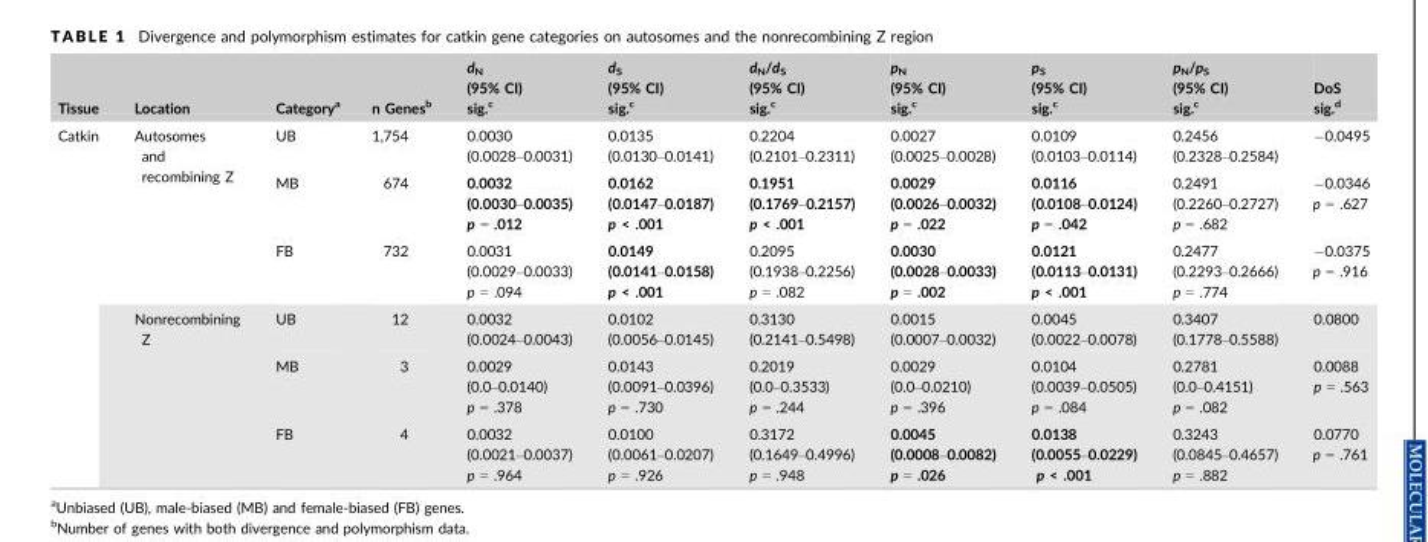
<table><thead><tr><td>Tissue</td><td>Location</td><td>Category<sup>a</sup></td><td>n Genes<sup>b</sup></td><td>d<sub>N</sub> (95% CI) sig.<sup>c</sup></td><td>d<sub>S</sub> (95% CI) sig.<sup>c</sup></td><td>d<sub>N</sub>/d<sub>S</sub> (95% CI) sig.<sup>c</sup></td><td>p<sub>N</sub> (95% CI) sig.<sup>c</sup></td><td>p<sub>S</sub> (95% CI) sig.<sup>c</sup></td><td>p<sub>N</sub>/p<sub>S</sub> (95% CI) sig.<sup>c</sup></td><td>DoS sig.<sup>d</sup></td></tr></thead><tbody><tr><td rowspan="6">Catkin</td><td rowspan="3">Autosomes and recombining Z</td><td>UB</td><td>1,754</td><td>0.0030 (0.0028–0.0031)</td><td>0.0135 (0.0130–0.0141)</td><td>0.2204 (0.2101–0.2311)</td><td>0.0027 (0.0025–0.0028)</td><td>0.0109 (0.0103–0.0114)</td><td>0.2456 (0.2328–0.2584)</td><td>−0.0495</td></tr><tr><td>MB</td><td>674</td><td>0.0032 (0.0030–0.0035) p = .012</td><td>0.0162 (0.0147–0.0187) p &lt; .001</td><td>0.1951 (0.1769–0.2157) p &lt; .001</td><td>0.0029 (0.0026–0.0032) p = .022</td><td>0.0116 (0.0108–0.0124) p = .042</td><td>0.2491 (0.2260–0.2727) p = .682</td><td>−0.0346 p = .627</td></tr><tr><td>FB</td><td>732</td><td>0.0031 (0.0029–0.0033) p = .094</td><td>0.0149 (0.0141–0.0158) p &lt; .001</td><td>0.2095 (0.1938–0.2256) p = .082</td><td>0.0030 (0.0028–0.0033) p = .002</td><td>0.0121 (0.0113–0.0131) p &lt; .001</td><td>0.2477 (0.2293–0.2666) p = .774</td><td>−0.0375 p = .916</td></tr><tr><td rowspan="3">Nonrecombining Z</td><td>UB</td><td>12</td><td>0.0032 (0.0024–0.0043)</td><td>0.0102 (0.0056–0.0145)</td><td>0.3130 (0.2141–0.5498)</td><td>0.0015 (0.0007–0.0032)</td><td>0.0045 (0.0022–0.0078)</td><td>0.3407 (0.1778–0.5588)</td><td>0.0800</td></tr><tr><td>MB</td><td>3</td><td>0.0029 (0.0–0.0140) p = .378</td><td>0.0143 (0.0091–0.0396) p = .730</td><td>0.2019 (0.0–0.3533) p = .244</td><td>0.0029 (0.0–0.0210) p = .396</td><td>0.0104 (0.0039–0.0505) p = .084</td><td>0.2781 (0.0–0.4151) p = .082</td><td>0.0088 p = .563</td></tr><tr><td>FB</td><td>4</td><td>0.0032 (0.0021–0.0037) p = .964</td><td>0.0100 (0.0061–0.0207) p = .926</td><td>0.3172 (0.1649–0.4996) p = .948</td><td>0.0045 (0.0008–0.0082) p = .026</td><td>0.0138 (0.0055–0.0229) p &lt; .001</td><td>0.3243 (0.0845–0.4657) p = .882</td><td>0.0770 p = .761</td></tr></tbody></table>